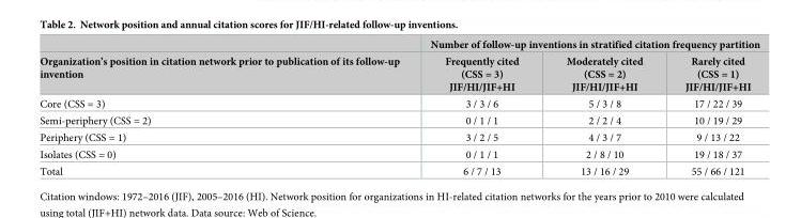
<table><thead><tr><td rowspan="2">Organization’s position in citation network prior to publication of its follow-up invention</td><td colspan="3">Number of follow-up inventions in stratified citation frequency partition</td></tr><tr><td>Frequently cited (CSS = 3) JIF/HI/JIF+HI</td><td>Moderately cited (CSS = 2) JIF/HI/JIF+HI</td><td>Rarely cited (CSS = 1) JIF/HI/JIF+HI</td></tr></thead><tbody><tr><td>Core (CSS = 3)</td><td>3 / 3 / 6</td><td>5 / 3 / 8</td><td>17 / 22 / 39</td></tr><tr><td>Semi-periphery (CSS = 2)</td><td>0 / 1 / 1</td><td>2 / 2 / 4</td><td>10 / 19 / 29</td></tr><tr><td>Periphery (CSS = 1)</td><td>3 / 2 / 5</td><td>4 / 3 / 7</td><td>9 / 13 / 22</td></tr><tr><td>Isolates (CSS = 0)</td><td>0 / 1 / 1</td><td>2 / 8 / 10</td><td>19 / 18 / 37</td></tr><tr><td>Total</td><td>6 / 7 / 13</td><td>13 / 16 / 29</td><td>55 / 66 / 121</td></tr></tbody></table>